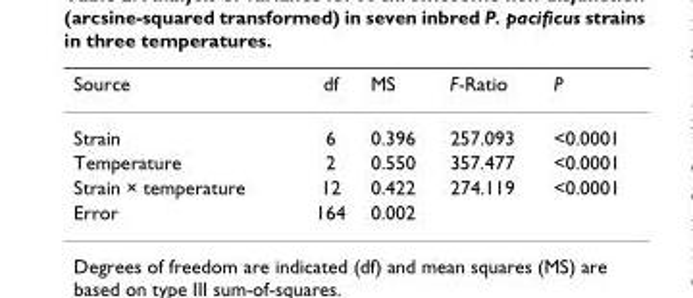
<table><thead><tr><td>Source</td><td>df</td><td>MS</td><td>F-Ratio</td><td>P</td></tr></thead><tbody><tr><td>Strain</td><td>6</td><td>0.396</td><td>257.093</td><td>&lt;0.0001</td></tr><tr><td>Temperature</td><td>2</td><td>0.550</td><td>357.477</td><td>&lt;0.0001</td></tr><tr><td>Strain × temperature</td><td>12</td><td>0.422</td><td>274.119</td><td>&lt;0.0001</td></tr><tr><td>Error</td><td>164</td><td>0.002</td><td></td><td></td></tr></tbody></table>